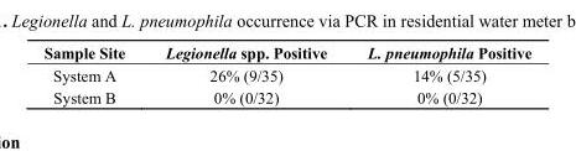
<table><thead><tr><td>Sample Site</td><td>Legionella spp. Positive</td><td>L. pneumophila Positive</td></tr></thead><tbody><tr><td>System A</td><td>26% (9/35)</td><td>14% (5/35)</td></tr><tr><td>System B</td><td>0% (0/32)</td><td>0% (0/32)</td></tr></tbody></table>